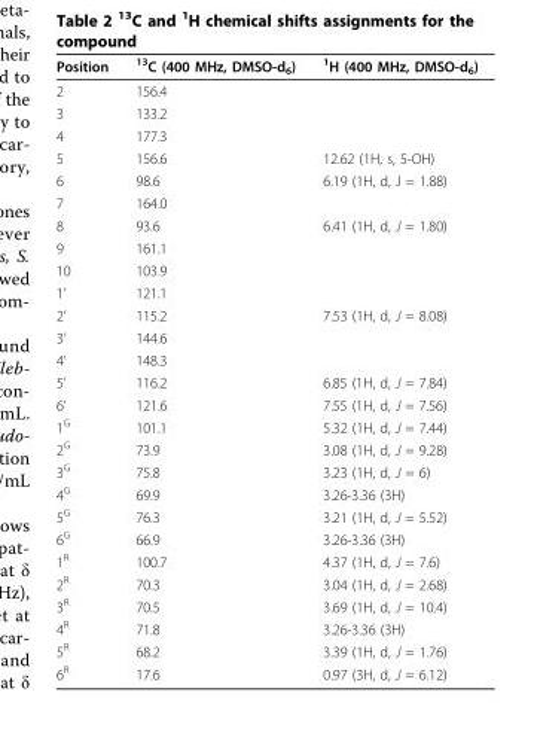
<table><thead><tr><td>Position</td><td><sup>13</sup>C (400 MHz, DMSO-d<sub>6</sub>)</td><td><sup>1</sup>H (400 MHz, DMSO-d<sub>6</sub>)</td></tr></thead><tbody><tr><td>2</td><td>156.4</td><td></td></tr><tr><td>3</td><td>133.2</td><td></td></tr><tr><td>4</td><td>177.3</td><td></td></tr><tr><td>5</td><td>156.6</td><td>12.62 (1H, s, 5-OH)</td></tr><tr><td>6</td><td>98.6</td><td>6.19 (1H, d, J = 1.88)</td></tr><tr><td>7</td><td>164.0</td><td></td></tr><tr><td>8</td><td>93.6</td><td>6.41 (1H, d, J = 1.80)</td></tr><tr><td>9</td><td>161.1</td><td></td></tr><tr><td>10</td><td>103.9</td><td></td></tr><tr><td>1’</td><td>121.1</td><td></td></tr><tr><td>2’</td><td>115.2</td><td>7.53 (1H, d, J = 8.08)</td></tr><tr><td>3’</td><td>144.6</td><td></td></tr><tr><td>4’</td><td>148.3</td><td></td></tr><tr><td>5’</td><td>116.2</td><td>6.85 (1H, d, J = 7.84)</td></tr><tr><td>6’</td><td>121.6</td><td>7.55 (1H, d, J = 7.56)</td></tr><tr><td>1<sup>G</sup></td><td>101.1</td><td>5.32 (1H, d, J = 7.44)</td></tr><tr><td>2<sup>G</sup></td><td>73.9</td><td>3.08 (1H, d, J = 9.28)</td></tr><tr><td>3<sup>G</sup></td><td>75.8</td><td>3.23 (1H, d, J = 6)</td></tr><tr><td>4<sup>G</sup></td><td>69.9</td><td>3.26-3.36 (3H)</td></tr><tr><td>5<sup>G</sup></td><td>76.3</td><td>3.21 (1H, d, J = 5.52)</td></tr><tr><td>6<sup>G</sup></td><td>66.9</td><td>3.26-3.36 (3H)</td></tr><tr><td>1<sup>R</sup></td><td>100.7</td><td>4.37 (1H, d, J = 7.6)</td></tr><tr><td>2<sup>R</sup></td><td>70.3</td><td>3.04 (1H, d, J = 2.68)</td></tr><tr><td>3<sup>R</sup></td><td>70.5</td><td>3.69 (1H, d, J = 10.4)</td></tr><tr><td>4<sup>R</sup></td><td>71.8</td><td>3.26-3.36 (3H)</td></tr><tr><td>5<sup>R</sup></td><td>68.2</td><td>3.39 (1H, d, J = 1.76)</td></tr><tr><td>6<sup>R</sup></td><td>17.6</td><td>0.97 (3H, d, J = 6.12)</td></tr></tbody></table>